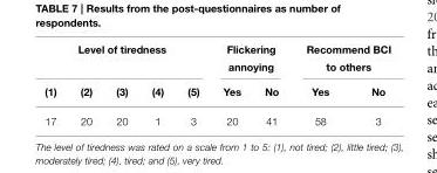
<table><thead><tr><td colspan="5">Level of tiredness</td><td colspan="2">Flickering annoying</td><td colspan="2">Recommend BCI to others</td></tr><tr><td>(1)</td><td>(2)</td><td>(3)</td><td>(4)</td><td>(5)</td><td>Yes</td><td>No</td><td>Yes</td><td>No</td></tr></thead><tbody><tr><td>17</td><td>20</td><td>20</td><td>1</td><td>3</td><td>20</td><td>41</td><td>58</td><td>3</td></tr></tbody></table>